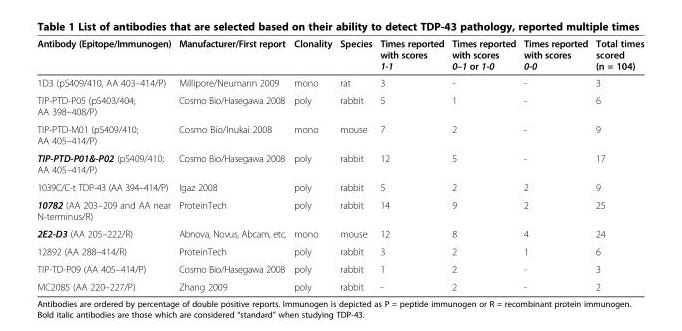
<table><thead><tr><td>Antibody (Epitope/Immunogen)</td><td>Manufacturer/First report</td><td>Clonality</td><td>Species</td><td>Times reported with scores 1-1</td><td>Times reported with scores 0–1 or 1-0</td><td>Times reported with scores 0-0</td><td>Total times scored (n = 104)</td></tr></thead><tbody><tr><td>1D3 (pS409/410, AA 403–414/P)</td><td>Millipore/Neumann 2009</td><td>mono</td><td>rat</td><td>3</td><td>-</td><td>-</td><td>3</td></tr><tr><td>TIP-PTD-P05 (pS403/404; AA 398–408/P)</td><td>Cosmo Bio/Hasegawa 2008</td><td>poly</td><td>rabbit</td><td>5</td><td>1</td><td>-</td><td>6</td></tr><tr><td>TIP-PTD-M01 (pS409/410; AA 405–414/P)</td><td>Cosmo Bio/Inukai 2008</td><td>mono</td><td>mouse</td><td>7</td><td>2</td><td>-</td><td>9</td></tr><tr><td>TIP-PTD-P01&amp;-P02 (pS409/410; AA 405–414/P)</td><td>Cosmo Bio/Hasegawa 2008</td><td>poly</td><td>rabbit</td><td>12</td><td>5</td><td>-</td><td>17</td></tr><tr><td>1039C/C-t TDP-43 (AA 394–414/P)</td><td>Igaz 2008</td><td>poly</td><td>rabbit</td><td>5</td><td>2</td><td>2</td><td>9</td></tr><tr><td>10782 (AA 203–209 and AA near N-terminus/R)</td><td>ProteinTech</td><td>poly</td><td>rabbit</td><td>14</td><td>9</td><td>2</td><td>25</td></tr><tr><td>2E2-D3 (AA 205–222/R)</td><td>Abnova, Novus, Abcam, etc.</td><td>mono</td><td>mouse</td><td>12</td><td>8</td><td>4</td><td>24</td></tr><tr><td>12892 (AA 288–414/R)</td><td>ProteinTech</td><td>poly</td><td>rabbit</td><td>3</td><td>2</td><td>1</td><td>6</td></tr><tr><td>TIP-TD-P09 (AA 405–414/P)</td><td>Cosmo Bio/Hasegawa 2008</td><td>poly</td><td>rabbit</td><td>1</td><td>2</td><td>-</td><td>3</td></tr><tr><td>MC2085 (AA 220–227/P)</td><td>Zhang 2009</td><td>poly</td><td>rabbit</td><td>-</td><td>2</td><td>-</td><td>2</td></tr></tbody></table>